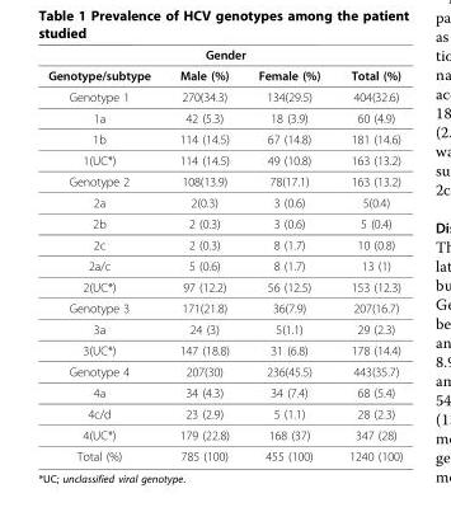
<table><thead><tr><td colspan="4">Gender</td></tr><tr><td>Genotype/subtype</td><td>Male (%)</td><td>Female (%)</td><td>Total (%)</td></tr></thead><tbody><tr><td>Genotype 1</td><td>270(34.3)</td><td>134(29.5)</td><td>404(32.6)</td></tr><tr><td>1a</td><td>42 (5.3)</td><td>18 (3.9)</td><td>60 (4.9)</td></tr><tr><td>1b</td><td>114 (14.5)</td><td>67 (14.8)</td><td>181 (14.6)</td></tr><tr><td>1(UC*)</td><td>114 (14.5)</td><td>49 (10.8)</td><td>163 (13.2)</td></tr><tr><td>Genotype 2</td><td>108(13.9)</td><td>78(17.1)</td><td>163 (13.2)</td></tr><tr><td>2a</td><td>2(0.3)</td><td>3 (0.6)</td><td>5(0.4)</td></tr><tr><td>2b</td><td>2 (0.3)</td><td>3 (0.6)</td><td>5 (0.4)</td></tr><tr><td>2c</td><td>2 (0.3)</td><td>8 (1.7)</td><td>10 (0.8)</td></tr><tr><td>2a/c</td><td>5 (0.6)</td><td>8 (1.7)</td><td>13 (1)</td></tr><tr><td>2(UC*)</td><td>97 (12.2)</td><td>56 (12.5)</td><td>153 (12.3)</td></tr><tr><td>Genotype 3</td><td>171(21.8)</td><td>36(7.9)</td><td>207(16.7)</td></tr><tr><td>3a</td><td>24 (3)</td><td>5(1.1)</td><td>29 (2.3)</td></tr><tr><td>3(UC*)</td><td>147 (18.8)</td><td>31 (6.8)</td><td>178 (14.4)</td></tr><tr><td>Genotype 4</td><td>207(30)</td><td>236(45.5)</td><td>443(35.7)</td></tr><tr><td>4a</td><td>34 (4.3)</td><td>34 (7.4)</td><td>68 (5.4)</td></tr><tr><td>4c/d</td><td>23 (2.9)</td><td>5 (1.1)</td><td>28 (2.3)</td></tr><tr><td>4(UC*)</td><td>179 (22.8)</td><td>168 (37)</td><td>347 (28)</td></tr><tr><td>Total (%)</td><td>785 (100)</td><td>455 (100)</td><td>1240 (100)</td></tr></tbody></table>